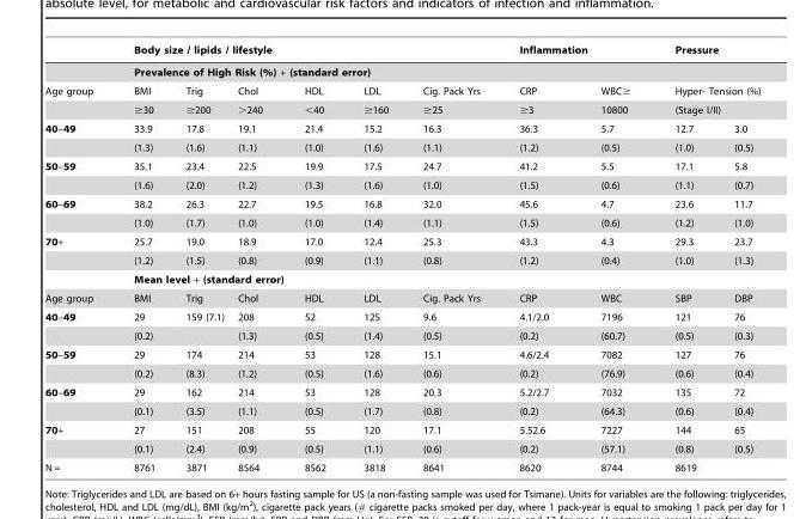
<table><thead><tr><td></td><td colspan="6">Body size / lipids / lifestyle</td><td colspan="2">Inflammation</td><td colspan="2">Pressure</td></tr></thead><tbody><tr><td></td><td colspan="10">Prevalence of High Risk (%) + (standard error)</td></tr><tr><td rowspan="2">Age group</td><td>BMI</td><td>Trig</td><td>Chol</td><td>HDL</td><td>LDL</td><td>Cig. Pack Yrs</td><td>CRP</td><td>WBC≥</td><td colspan="2">Hyper- Tension (%)</td></tr><tr><td>≥30</td><td>≥200</td><td>&gt;240</td><td>&lt;40</td><td>≥160</td><td>≥25</td><td>≥3</td><td>10800</td><td colspan="2">(Stage I/II)</td></tr><tr><td rowspan="2">40–49</td><td>33.9</td><td>17.8</td><td>19.1</td><td>21.4</td><td>15.2</td><td>16.3</td><td>36.3</td><td>5.7</td><td>12.7</td><td>3.0</td></tr><tr><td>(1.3)</td><td>(1.6)</td><td>(1.1)</td><td>(1.0)</td><td>(1.6)</td><td>(1.1)</td><td>(1.2)</td><td>(0.5)</td><td>(1.0)</td><td>(0.5)</td></tr><tr><td rowspan="2">50–59</td><td>35.1</td><td>23.4</td><td>22.5</td><td>19.9</td><td>17.5</td><td>24.7</td><td>41.2</td><td>5.5</td><td>17.1</td><td>5.8</td></tr><tr><td>(1.6)</td><td>(2.0)</td><td>(1.2)</td><td>(1.3)</td><td>(1.6)</td><td>(1.0)</td><td>(1.5)</td><td>(0.6)</td><td>(1.1)</td><td>(0.7)</td></tr><tr><td rowspan="2">60–69</td><td>38.2</td><td>26.3</td><td>22.7</td><td>19.5</td><td>16.8</td><td>32.0</td><td>45.6</td><td>4.7</td><td>23.6</td><td>11.7</td></tr><tr><td>(1.0)</td><td>(1.7)</td><td>(1.0)</td><td>(1.0)</td><td>(1.4)</td><td>(1.1)</td><td>(1.5)</td><td>(0.6)</td><td>(1.2)</td><td>(1.0)</td></tr><tr><td rowspan="3">70+</td><td>25.7</td><td>19.0</td><td>18.9</td><td>17.0</td><td>12.4</td><td>25.3</td><td>43.3</td><td>4.3</td><td>29.3</td><td>23.7</td></tr><tr><td>(1.2)</td><td>(1.5)</td><td>(0.8)</td><td>(0.9)</td><td>(1.1)</td><td>(0.8)</td><td>(1.2)</td><td>(0.4)</td><td>(1.0)</td><td>(1.3)</td></tr><tr><td colspan="10">Mean level + (standard error)</td></tr><tr><td>Age group</td><td>BMI</td><td>Trig</td><td>Chol</td><td>HDL</td><td>LDL</td><td>Cig. Pack Yrs</td><td>CRP</td><td>WBC</td><td>SBP</td><td>DBP</td></tr><tr><td rowspan="2">40–49</td><td>29</td><td>159 (7.1)</td><td>208</td><td>52</td><td>125</td><td>9.6</td><td>4.1/2.0</td><td>7196</td><td>121</td><td>76</td></tr><tr><td>(0.2)</td><td></td><td>(1.3)</td><td>(0.5)</td><td>(1.4)</td><td>(0.5)</td><td>(0.2)</td><td>(60.7)</td><td>(0.5)</td><td>(0.3)</td></tr><tr><td rowspan="2">50–59</td><td>29</td><td>174</td><td>214</td><td>53</td><td>128</td><td>15.1</td><td>4.6/2.4</td><td>7082</td><td>127</td><td>76</td></tr><tr><td>(0.2)</td><td>(8.3)</td><td>(1.2)</td><td>(0.5)</td><td>(1.6)</td><td>(0.6)</td><td>(0.2)</td><td>(76.9)</td><td>(0.6)</td><td>(0.4)</td></tr><tr><td rowspan="2">60–69</td><td>29</td><td>162</td><td>214</td><td>53</td><td>128</td><td>20.3</td><td>5.2/2.7</td><td>7032</td><td>135</td><td>72</td></tr><tr><td>(0.1)</td><td>(3.5)</td><td>(1.1)</td><td>(0.5)</td><td>(1.7)</td><td>(0.8)</td><td>(0.2)</td><td>(64.3)</td><td>(0.6)</td><td>(0.4)</td></tr><tr><td rowspan="2">70+</td><td>27</td><td>151</td><td>208</td><td>55</td><td>120</td><td>17.1</td><td>5.52.6</td><td>7227</td><td>144</td><td>65</td></tr><tr><td>(0.1)</td><td>(2.4)</td><td>(0.9)</td><td>(0.5)</td><td>(1.1)</td><td>(0.6)</td><td>(0.2)</td><td>(57.1)</td><td>(0.8)</td><td>(0.5)</td></tr><tr><td>N =</td><td>8761</td><td>3871</td><td>8564</td><td>8562</td><td>3818</td><td>8641</td><td>8620</td><td>8744</td><td colspan="2">8619</td></tr></tbody></table>